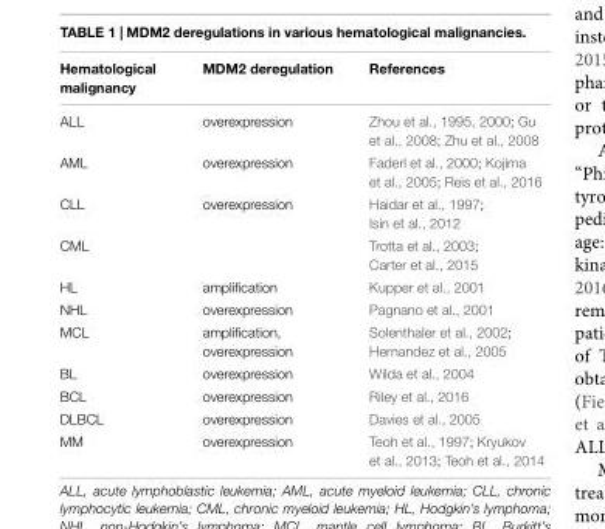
<table><thead><tr><td>Hematological malignancy</td><td>MDM2 deregulation</td><td>References</td></tr></thead><tbody><tr><td>ALL</td><td>overexpression</td><td>Zhou et al., 1995, 2000; Gu et al., 2008; Zhu et al., 2008</td></tr><tr><td>AML</td><td>overexpression</td><td>Faderl et al., 2000; Kojima et al., 2005; Reis et al., 2016</td></tr><tr><td>CLL</td><td>overexpression</td><td>Haidar et al., 1997; Isin et al., 2012</td></tr><tr><td>CML</td><td></td><td>Trotta et al., 2003; Carter et al., 2015</td></tr><tr><td>HL</td><td>amplification</td><td>Kupper et al., 2001</td></tr><tr><td>NHL</td><td>overexpression</td><td>Pagnano et al., 2001</td></tr><tr><td>MCL</td><td>amplification, overexpression</td><td>Solenthaler et al., 2002; Hernandez et al., 2005</td></tr><tr><td>BL</td><td>overexpression</td><td>Wilda et al., 2004</td></tr><tr><td>BCL</td><td>overexpression</td><td>Riley et al., 2016</td></tr><tr><td>DLBCL</td><td>overexpression</td><td>Davies et al., 2005</td></tr><tr><td>MM</td><td>overexpression</td><td>Teoh et al., 1997; Kryukov et al., 2013; Teoh et al., 2014</td></tr></tbody></table>